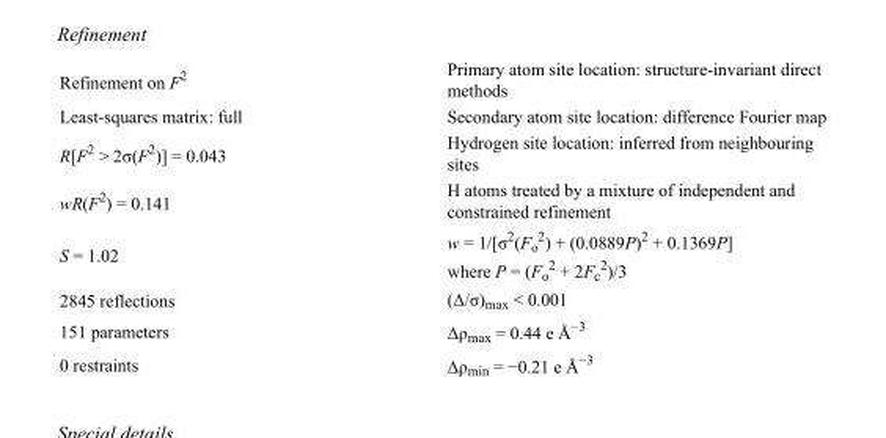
<table><tbody><tr><td>Refinement on F<sup>2</sup></td><td>Primary atom site location: structure-invariant direct methods</td></tr><tr><td>Least-squares matrix: full</td><td>Secondary atom site location: difference Fourier map</td></tr><tr><td>R[F<sup>2</sup> &gt; 2σ(F<sup>2</sup>)] = 0.043</td><td>Hydrogen site location: inferred from neighbouring sites</td></tr><tr><td>wR(F<sup>2</sup>) = 0.141</td><td>H atoms treated by a mixture of independent and constrained refinement</td></tr><tr><td>S = 1.02</td><td>w = 1/[σ<sup>2</sup>(F<sub>o</sub> <sup>2</sup>) + (0.0889P)<sup>2</sup> + 0.1369P] where P = (F<sub>o</sub> <sup>2</sup> + 2F<sub>c</sub> <sup>2</sup>)/3</td></tr><tr><td>2845 reflections</td><td>(Δ/σ)<sub>max</sub> &lt; 0.001</td></tr><tr><td>151 parameters</td><td>Δρ<sub>max</sub> = 0.44 e Å<sup>−3</sup></td></tr><tr><td>0 restraints</td><td>Δρ<sub>min</sub> = −0.21 e Å<sup>−3</sup></td></tr></tbody></table>